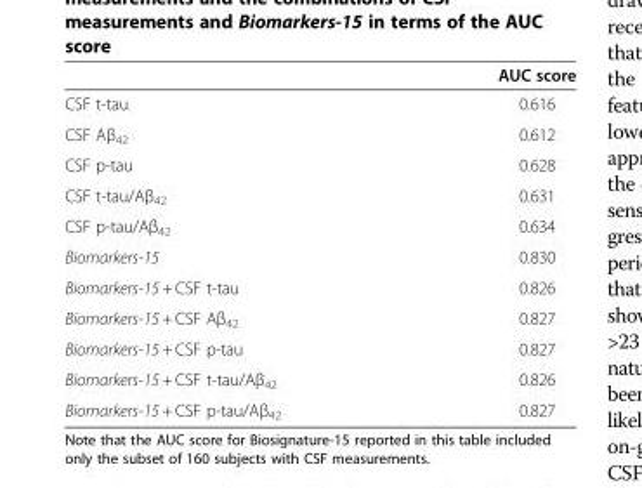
<table><thead><tr><td></td><td>AUC score</td></tr></thead><tbody><tr><td>CSF t-tau</td><td>0.616</td></tr><tr><td>CSF Aβ<sub>42</sub></td><td>0.612</td></tr><tr><td>CSF p-tau</td><td>0.628</td></tr><tr><td>CSF t-tau/Aβ<sub>42</sub></td><td>0.631</td></tr><tr><td>CSF p-tau/Aβ<sub>42</sub></td><td>0.634</td></tr><tr><td>Biomarkers-15</td><td>0.830</td></tr><tr><td>Biomarkers-15 + CSF t-tau</td><td>0.826</td></tr><tr><td>Biomarkers-15 + CSF Aβ<sub>42</sub></td><td>0.827</td></tr><tr><td>Biomarkers-15 + CSF p-tau</td><td>0.827</td></tr><tr><td>Biomarkers-15 + CSF t-tau/Aβ<sub>42</sub></td><td>0.826</td></tr><tr><td>Biomarkers-15 + CSF p-tau/Aβ<sub>42</sub></td><td>0.827</td></tr></tbody></table>